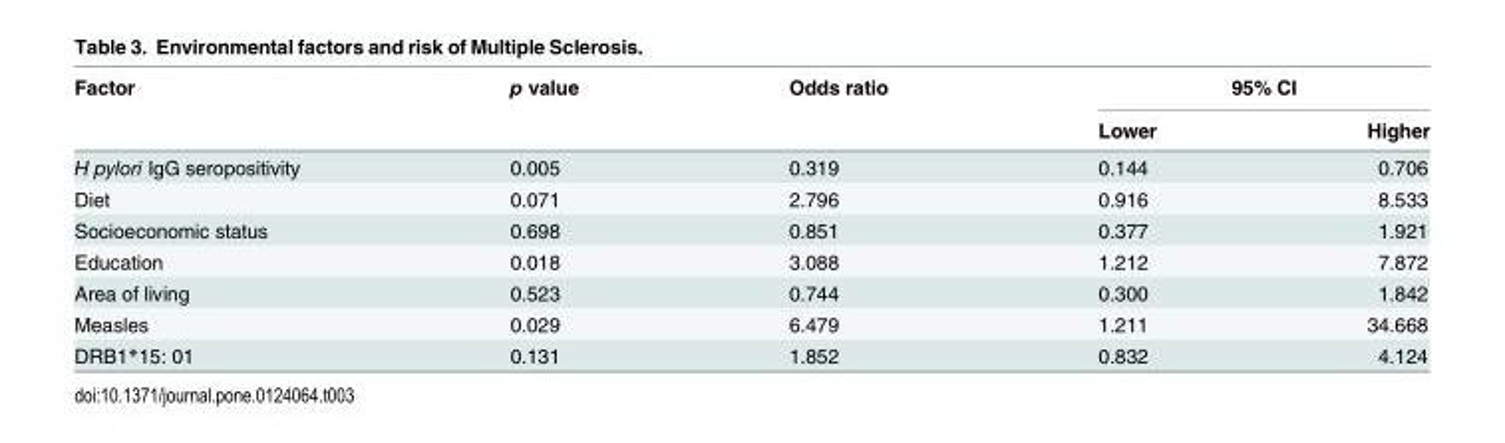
<table><thead><tr><td rowspan="2">Factor</td><td rowspan="2">p value</td><td rowspan="2">Odds ratio</td><td colspan="2">95% CI</td></tr><tr><td>Lower</td><td>Higher</td></tr></thead><tbody><tr><td>H pylori IgG seropositivity</td><td>0.005</td><td>0.319</td><td>0.144</td><td>0.706</td></tr><tr><td>Diet</td><td>0.071</td><td>2.796</td><td>0.916</td><td>8.533</td></tr><tr><td>Socioeconomic status</td><td>0.698</td><td>0.851</td><td>0.377</td><td>1.921</td></tr><tr><td>Education</td><td>0.018</td><td>3.088</td><td>1.212</td><td>7.872</td></tr><tr><td>Area of living</td><td>0.523</td><td>0.744</td><td>0.300</td><td>1.842</td></tr><tr><td>Measles</td><td>0.029</td><td>6.479</td><td>1.211</td><td>34.668</td></tr><tr><td>DRB1*15: 01</td><td>0.131</td><td>1.852</td><td>0.832</td><td>4.124</td></tr></tbody></table>